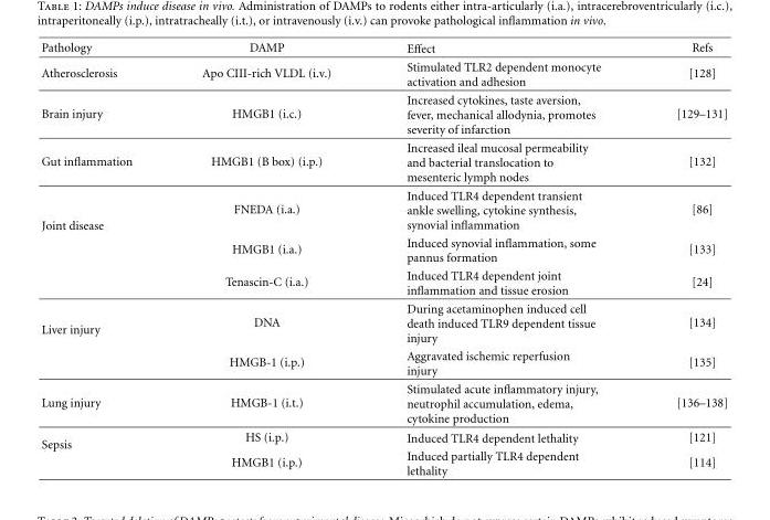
<table><thead><tr><td>Pathology</td><td>DAMP</td><td>Effect</td><td>Refs</td></tr></thead><tbody><tr><td>Atherosclerosis</td><td>Apo CIII-rich VLDL (i.v.)</td><td>Stimulated TLR2 dependent monocyte activation and adhesion</td><td>[128]</td></tr><tr><td>Brain injury</td><td>HMGB1 (i.c.)</td><td>Increased cytokines, taste aversion, fever, mechanical allodynia, promotes severity of infarction</td><td>[129–131]</td></tr><tr><td>Gut inflammation</td><td>HMGB1 (B box) (i.p.)</td><td>Increased ileal mucosal permeability and bacterial translocation to mesenteric lymph nodes</td><td>[132]</td></tr><tr><td rowspan="3">Joint disease</td><td>FNEDA (i.a.)</td><td>Induced TLR4 dependent transient ankle swelling, cytokine synthesis, synovial inflammation</td><td>[86]</td></tr><tr><td>HMGB1 (i.a.)</td><td>Induced synovial inflammation, some pannus formation</td><td>[133]</td></tr><tr><td>Tenascin-C (i.a.)</td><td>Induced TLR4 dependent joint inflammation and tissue erosion</td><td>[24]</td></tr><tr><td rowspan="2">Liver injury</td><td>DNA</td><td>During acetaminophen induced cell death induced TLR9 dependent tissue injury</td><td>[134]</td></tr><tr><td>HMGB-1 (i.p.)</td><td>Aggravated ischemic reperfusion injury</td><td>[135]</td></tr><tr><td>Lung injury</td><td>HMGB-1 (i.t.)</td><td>Stimulated acute inflammatory injury, neutrophil accumulation, edema, cytokine production</td><td>[136–138]</td></tr><tr><td rowspan="2">Sepsis</td><td>HS (i.p.)</td><td>Induced TLR4 dependent lethality</td><td>[121]</td></tr><tr><td>HMGB1 (i.p.)</td><td>Induced partially TLR4 dependent lethality</td><td>[114]</td></tr></tbody></table>